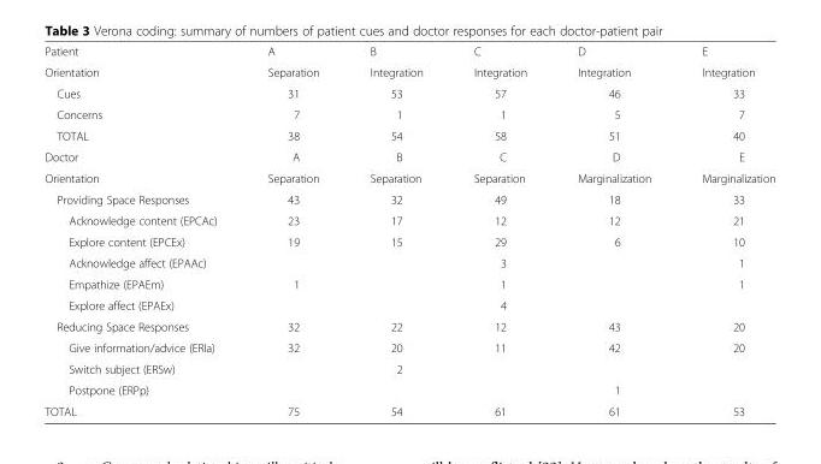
<table><tbody><tr><td>Patient</td><td>A</td><td>B</td><td>C</td><td>D</td><td>E</td></tr><tr><td>Orientation</td><td>Separation</td><td>Integration</td><td>Integration</td><td>Integration</td><td>Integration</td></tr><tr><td>Cues</td><td>31</td><td>53</td><td>57</td><td>46</td><td>33</td></tr><tr><td>Concerns</td><td>7</td><td>1</td><td>1</td><td>5</td><td>7</td></tr><tr><td>TOTAL</td><td>38</td><td>54</td><td>58</td><td>51</td><td>40</td></tr><tr><td>Doctor</td><td>A</td><td>B</td><td>C</td><td>D</td><td>E</td></tr><tr><td>Orientation</td><td>Separation</td><td>Separation</td><td>Separation</td><td>Marginalization</td><td>Marginalization</td></tr><tr><td>Providing Space Responses</td><td>43</td><td>32</td><td>49</td><td>18</td><td>33</td></tr><tr><td>Acknowledge content (EPCAc)</td><td>23</td><td>17</td><td>12</td><td>12</td><td>21</td></tr><tr><td>Explore content (EPCEx)</td><td>19</td><td>15</td><td>29</td><td>6</td><td>10</td></tr><tr><td>Acknowledge affect (EPAAc)</td><td></td><td></td><td>3</td><td></td><td>1</td></tr><tr><td>Empathize (EPAEm)</td><td>1</td><td></td><td>1</td><td></td><td>1</td></tr><tr><td>Explore affect (EPAEx)</td><td></td><td></td><td>4</td><td></td><td></td></tr><tr><td>Reducing Space Responses</td><td>32</td><td>22</td><td>12</td><td>43</td><td>20</td></tr><tr><td>Give information/advice (ERIa)</td><td>32</td><td>20</td><td>11</td><td>42</td><td>20</td></tr><tr><td>Switch subject (ERSw)</td><td></td><td>2</td><td></td><td></td><td></td></tr><tr><td>Postpone (ERPp)</td><td></td><td></td><td></td><td>1</td><td></td></tr><tr><td>TOTAL</td><td>75</td><td>54</td><td>61</td><td>61</td><td>53</td></tr></tbody></table>